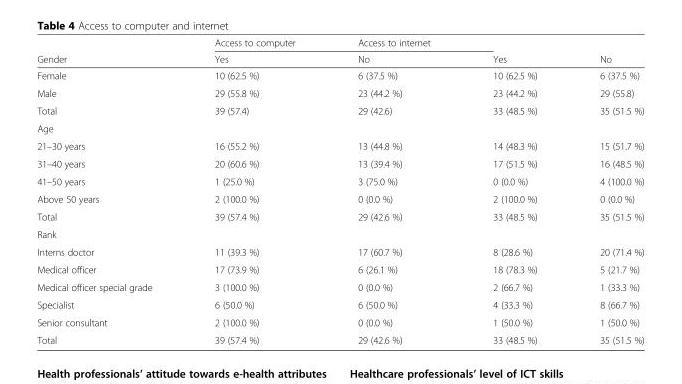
<table><thead><tr><td rowspan="2">Gender</td><td rowspan="2">Access to computer Yes</td><td rowspan="2">Access to internet No</td><td rowspan="2">Yes</td><td rowspan="2">No</td></tr><tr></tr></thead><tbody><tr><td>Female</td><td>10 (62.5 %)</td><td>6 (37.5 %)</td><td>10 (62.5 %)</td><td>6 (37.5 %)</td></tr><tr><td>Male</td><td>29 (55.8 %)</td><td>23 (44.2 %)</td><td>23 (44.2 %)</td><td>29 (55.8)</td></tr><tr><td>Total</td><td>39 (57.4)</td><td>29 (42.6)</td><td>33 (48.5 %)</td><td>35 (51.5 %)</td></tr><tr><td colspan="5">Age</td></tr><tr><td>21–30 years</td><td>16 (55.2 %)</td><td>13 (44.8 %)</td><td>14 (48.3 %)</td><td>15 (51.7 %)</td></tr><tr><td>31–40 years</td><td>20 (60.6 %)</td><td>13 (39.4 %)</td><td>17 (51.5 %)</td><td>16 (48.5 %)</td></tr><tr><td>41–50 years</td><td>1 (25.0 %)</td><td>3 (75.0 %)</td><td>0 (0.0 %)</td><td>4 (100.0 %)</td></tr><tr><td>Above 50 years</td><td>2 (100.0 %)</td><td>0 (0.0 %)</td><td>2 (100.0 %)</td><td>0 (0.0 %)</td></tr><tr><td>Total</td><td>39 (57.4 %)</td><td>29 (42.6 %)</td><td>33 (48.5 %)</td><td>35 (51.5 %)</td></tr><tr><td colspan="5">Rank</td></tr><tr><td>Interns doctor</td><td>11 (39.3 %)</td><td>17 (60.7 %)</td><td>8 (28.6 %)</td><td>20 (71.4 %)</td></tr><tr><td>Medical officer</td><td>17 (73.9 %)</td><td>6 (26.1 %)</td><td>18 (78.3 %)</td><td>5 (21.7 %)</td></tr><tr><td>Medical officer special grade</td><td>3 (100.0 %)</td><td>0 (0.0 %)</td><td>2 (66.7 %)</td><td>1 (33.3 %)</td></tr><tr><td>Specialist</td><td>6 (50.0 %)</td><td>6 (50.0 %)</td><td>4 (33.3 %)</td><td>8 (66.7 %)</td></tr><tr><td>Senior consultant</td><td>2 (100.0 %)</td><td>0 (0.0 %)</td><td>1 (50.0 %)</td><td>1 (50.0 %)</td></tr><tr><td>Total</td><td>39 (57.4 %)</td><td>29 (42.6 %)</td><td>33 (48.5 %)</td><td>35 (51.5 %)</td></tr></tbody></table>